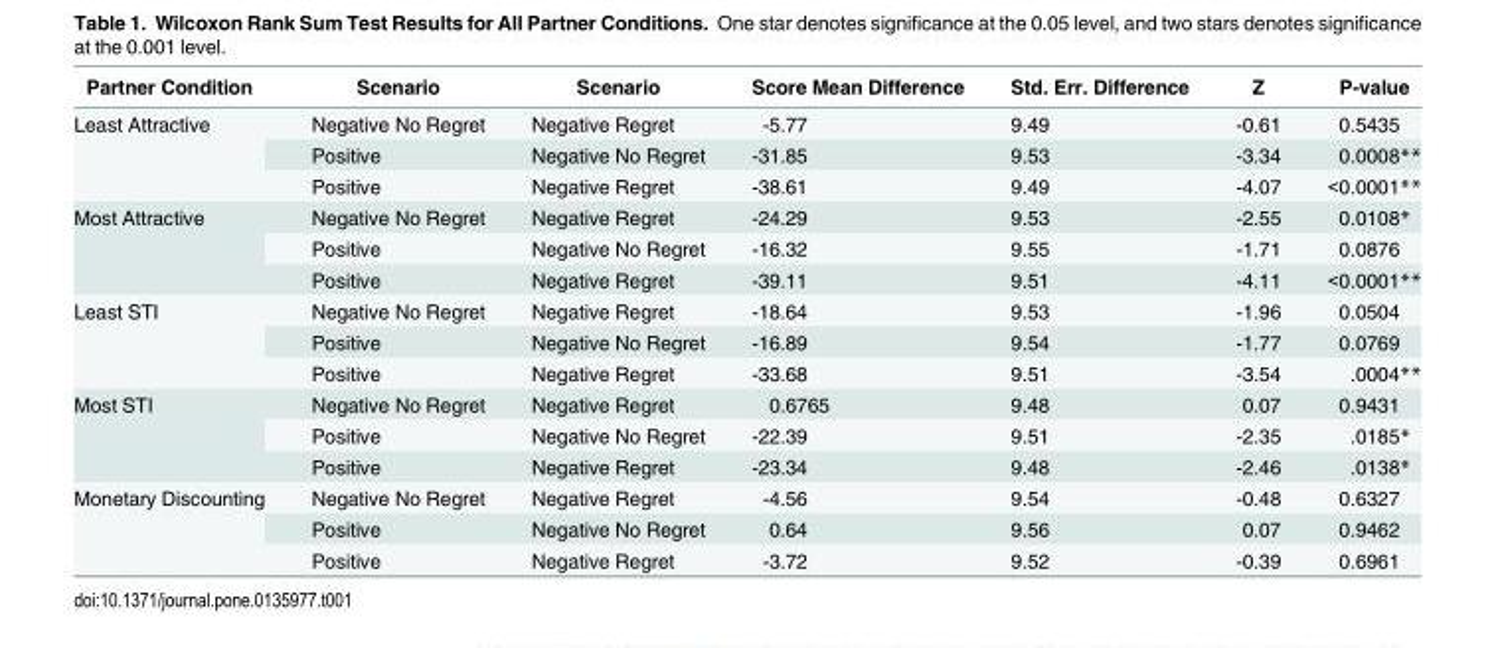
<table><thead><tr><td>Partner Condition</td><td>Scenario</td><td>Scenario</td><td>Score Mean Difference</td><td>Std. Err. Difference</td><td>Z</td><td>P-value</td></tr></thead><tbody><tr><td rowspan="3">Least Attractive</td><td>Negative No Regret</td><td>Negative Regret</td><td>-5.77</td><td>9.49</td><td>-0.61</td><td>0.5435</td></tr><tr><td>Positive</td><td>Negative No Regret</td><td>-31.85</td><td>9.53</td><td>-3.34</td><td>0.0008**</td></tr><tr><td>Positive</td><td>Negative Regret</td><td>-38.61</td><td>9.49</td><td>-4.07</td><td>&lt;0.0001**</td></tr><tr><td rowspan="3">Most Attractive</td><td>Negative No Regret</td><td>Negative Regret</td><td>-24.29</td><td>9.53</td><td>-2.55</td><td>0.0108*</td></tr><tr><td>Positive</td><td>Negative No Regret</td><td>-16.32</td><td>9.55</td><td>-1.71</td><td>0.0876</td></tr><tr><td>Positive</td><td>Negative Regret</td><td>-39.11</td><td>9.51</td><td>-4.11</td><td>&lt;0.0001**</td></tr><tr><td rowspan="3">Least STI</td><td>Negative No Regret</td><td>Negative Regret</td><td>-18.64</td><td>9.53</td><td>-1.96</td><td>0.0504</td></tr><tr><td>Positive</td><td>Negative No Regret</td><td>-16.89</td><td>9.54</td><td>-1.77</td><td>0.0769</td></tr><tr><td>Positive</td><td>Negative Regret</td><td>-33.68</td><td>9.51</td><td>-3.54</td><td>.0004**</td></tr><tr><td rowspan="3">Most STI</td><td>Negative No Regret</td><td>Negative Regret</td><td>0.6765</td><td>9.48</td><td>0.07</td><td>0.9431</td></tr><tr><td>Positive</td><td>Negative No Regret</td><td>-22.39</td><td>9.51</td><td>-2.35</td><td>.0185*</td></tr><tr><td>Positive</td><td>Negative Regret</td><td>-23.34</td><td>9.48</td><td>-2.46</td><td>.0138*</td></tr><tr><td rowspan="3">Monetary Discounting</td><td>Negative No Regret</td><td>Negative Regret</td><td>-4.56</td><td>9.54</td><td>-0.48</td><td>0.6327</td></tr><tr><td>Positive</td><td>Negative No Regret</td><td>0.64</td><td>9.56</td><td>0.07</td><td>0.9462</td></tr><tr><td>Positive</td><td>Negative Regret</td><td>-3.72</td><td>9.52</td><td>-0.39</td><td>0.6961</td></tr></tbody></table>